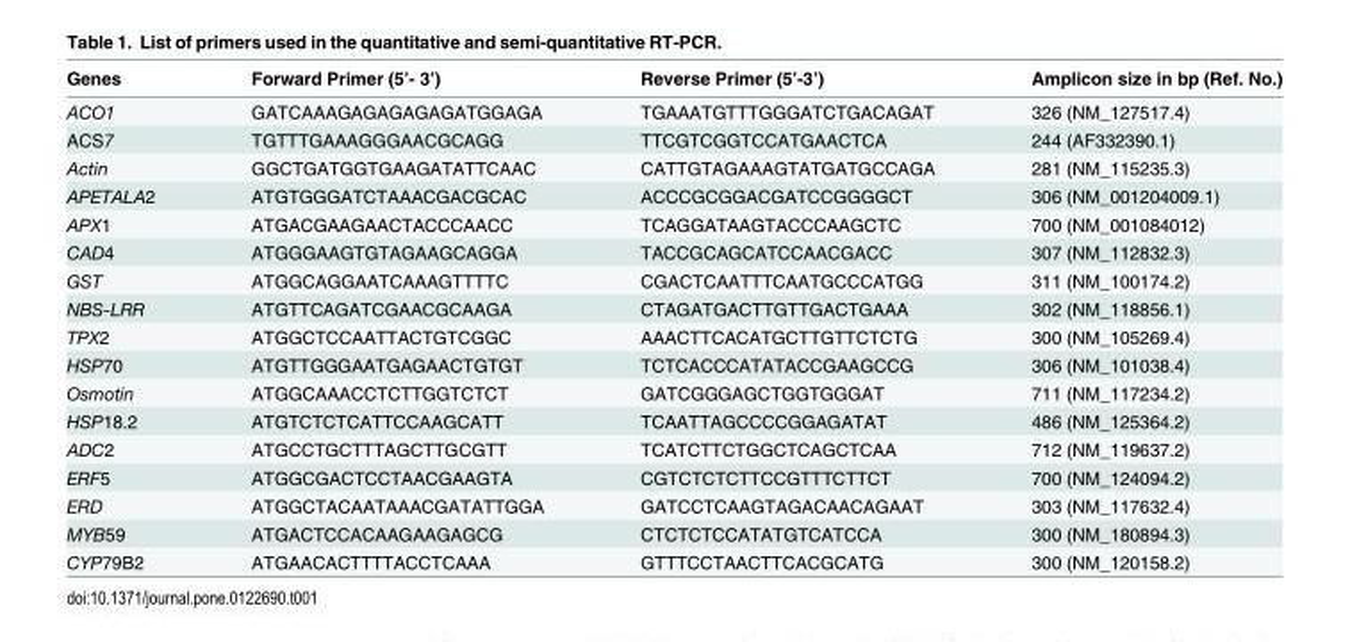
<table><thead><tr><td>Genes</td><td>Forward Primer (5’- 3’)</td><td>Reverse Primer (5’-3’)</td><td>Amplicon size in bp (Ref. No.)</td></tr></thead><tbody><tr><td>ACO1</td><td>GATCAAAGAGAGAGAGATGGAGA</td><td>TGAAATGTTTGGGATCTGACAGAT</td><td>326 (NM_127517.4)</td></tr><tr><td>ACS7</td><td>TGTTTGAAAGGGAACGCAGG</td><td>TTCGTCGGTCCATGAACTCA</td><td>244 (AF332390.1)</td></tr><tr><td>Actin</td><td>GGCTGATGGTGAAGATATTCAAC</td><td>CATTGTAGAAAGTATGATGCCAGA</td><td>281 (NM_115235.3)</td></tr><tr><td>APETALA2</td><td>ATGTGGGATCTAAACGACGCAC</td><td>ACCCGCGGACGATCCGGGGCT</td><td>306 (NM_001204009.1)</td></tr><tr><td>APX1</td><td>ATGACGAAGAACTACCCAACC</td><td>TCAGGATAAGTACCCAAGCTC</td><td>700 (NM_001084012)</td></tr><tr><td>CAD4</td><td>ATGGGAAGTGTAGAAGCAGGA</td><td>TACCGCAGCATCCAACGACC</td><td>307 (NM_112832.3)</td></tr><tr><td>GST</td><td>ATGGCAGGAATCAAAGTTTTC</td><td>CGACTCAATTTCAATGCCCATGG</td><td>311 (NM_100174.2)</td></tr><tr><td>NBS-LRR</td><td>ATGTTCAGATCGAACGCAAGA</td><td>CTAGATGACTTGTTGACTGAAA</td><td>302 (NM_118856.1)</td></tr><tr><td>TPX2</td><td>ATGGCTCCAATTACTGTCGGC</td><td>AAACTTCACATGCTTGTTCTCTG</td><td>300 (NM_105269.4)</td></tr><tr><td>HSP70</td><td>ATGTTGGGAATGAGAACTGTGT</td><td>TCTCACCCATATACCGAAGCCG</td><td>306 (NM_101038.4)</td></tr><tr><td>Osmotin</td><td>ATGGCAAACCTCTTGGTCTCT</td><td>GATCGGGAGCTGGTGGGAT</td><td>711 (NM_117234.2)</td></tr><tr><td>HSP18.2</td><td>ATGTCTCTCATTCCAAGCATT</td><td>TCAATTAGCCCCGGAGATAT</td><td>486 (NM_125364.2)</td></tr><tr><td>ADC2</td><td>ATGCCTGCTTTAGCTTGCGTT</td><td>TCATCTTCTGGCTCAGCTCAA</td><td>712 (NM_119637.2)</td></tr><tr><td>ERF5</td><td>ATGGCGACTCCTAACGAAGTA</td><td>CGTCTCTCTTCCGTTTCTTCT</td><td>700 (NM_124094.2)</td></tr><tr><td>ERD</td><td>ATGGCTACAATAAACGATATTGGA</td><td>GATCCTCAAGTAGACAACAGAAT</td><td>303 (NM_117632.4)</td></tr><tr><td>MYB59</td><td>ATGACTCCACAAGAAGAGCG</td><td>CTCTCTCCATATGTCATCCA</td><td>300 (NM_180894.3)</td></tr><tr><td>CYP79B2</td><td>ATGAACACTTTTACCTCAAA</td><td>GTTTCCTAACTTCACGCATG</td><td>300 (NM_120158.2)</td></tr></tbody></table>